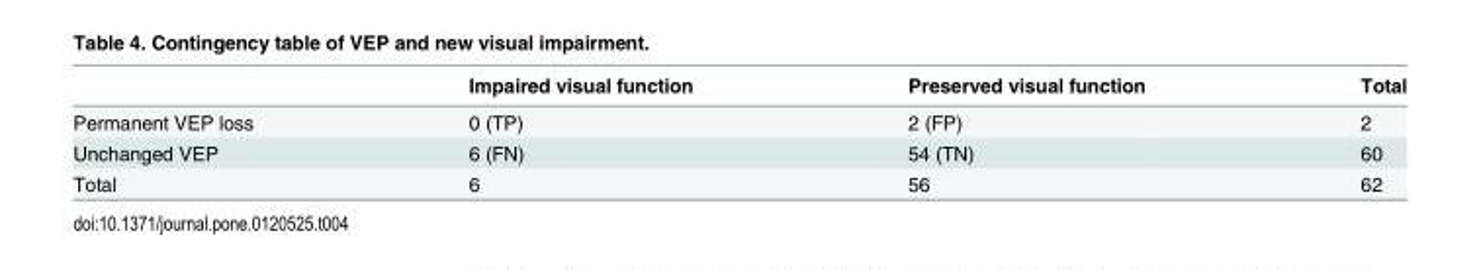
<table><thead><tr><td></td><td>Impaired visual function</td><td>Preserved visual function</td><td>Total</td></tr></thead><tbody><tr><td>Permanent VEP loss</td><td>0 (TP)</td><td>2 (FP)</td><td>2</td></tr><tr><td>Unchanged VEP</td><td>6 (FN)</td><td>54 (TN)</td><td>60</td></tr><tr><td>Total</td><td>6</td><td>56</td><td>62</td></tr></tbody></table>